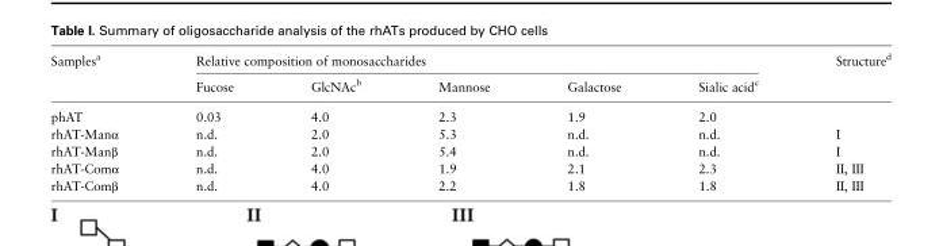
<table><thead><tr><td rowspan="2">Samples<sup>a</sup></td><td colspan="5">Relative composition of monosaccharides</td><td rowspan="2">Structure<sup>d</sup></td></tr><tr><td>Fucose</td><td>GlcNAc<sup>b</sup></td><td>Mannose</td><td>Galactose</td><td>Sialic acid<sup>c</sup></td></tr></thead><tbody><tr><td>phAT</td><td>0.03</td><td>4.0</td><td>2.3</td><td>1.9</td><td>2.0</td><td></td></tr><tr><td>rhAT-Manα</td><td>n.d.</td><td>2.0</td><td>5.3</td><td>n.d.</td><td>n.d.</td><td>I</td></tr><tr><td>rhAT-Manβ</td><td>n.d.</td><td>2.0</td><td>5.4</td><td>n.d.</td><td>n.d.</td><td>I</td></tr><tr><td>rhAT-Comα</td><td>n.d.</td><td>4.0</td><td>1.9</td><td>2.1</td><td>2.3</td><td>II, III</td></tr><tr><td>rhAT-Comβ</td><td>n.d.</td><td>4.0</td><td>2.2</td><td>1.8</td><td>1.8</td><td>II, III</td></tr></tbody></table>